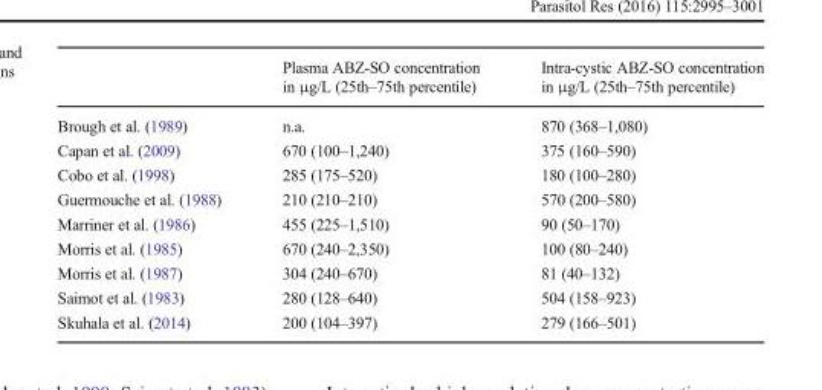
<table><thead><tr><td></td><td>Plasma ABZ-SO concentration in μg/L (25th–75th percentile)</td><td>Intra-cystic ABZ-SO concentration in μg/L (25th–75th percentile)</td></tr></thead><tbody><tr><td>Brough et al. (1989)</td><td>n.a.</td><td>870 (368–1,080)</td></tr><tr><td>Capan et al. (2009)</td><td>670 (100–1,240)</td><td>375 (160–590)</td></tr><tr><td>Cobo et al. (1998)</td><td>285 (175–520)</td><td>180 (100–280)</td></tr><tr><td>Guermouche et al. (1988)</td><td>210 (210–210)</td><td>570 (200–580)</td></tr><tr><td>Marriner et al. (1986)</td><td>455 (225–1,510)</td><td>90 (50–170)</td></tr><tr><td>Morris et al. (1985)</td><td>670 (240–2,350)</td><td>100 (80–240)</td></tr><tr><td>Morris et al. (1987)</td><td>304 (240–670)</td><td>81 (40–132)</td></tr><tr><td>Saimot et al. (1983)</td><td>280 (128–640)</td><td>504 (158–923)</td></tr><tr><td>Skuhala et al. (2014)</td><td>200 (104–397)</td><td>279 (166–501)</td></tr></tbody></table>